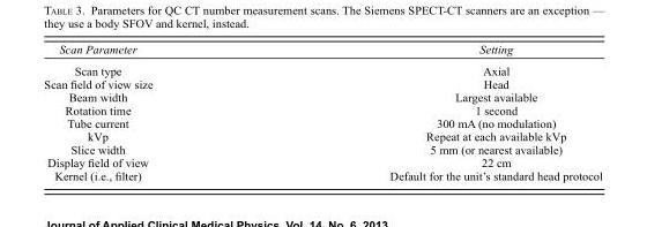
<table><thead><tr><td>Scan Parameter</td><td>Setting</td></tr></thead><tbody><tr><td>Scan type</td><td>Axial</td></tr><tr><td>Scan field of view size</td><td>Head</td></tr><tr><td>Beam width</td><td>Largest available</td></tr><tr><td>Rotation time</td><td>1 second</td></tr><tr><td>Tube current</td><td>300 mA (no modulation)</td></tr><tr><td>kVp</td><td>Repeat at each available kVp</td></tr><tr><td>Slice width</td><td>5 mm (or nearest available)</td></tr><tr><td>Display field of view</td><td>22 cm</td></tr><tr><td>Kernel (i.e., filter)</td><td>Default for the unit’s standard head protocol</td></tr></tbody></table>